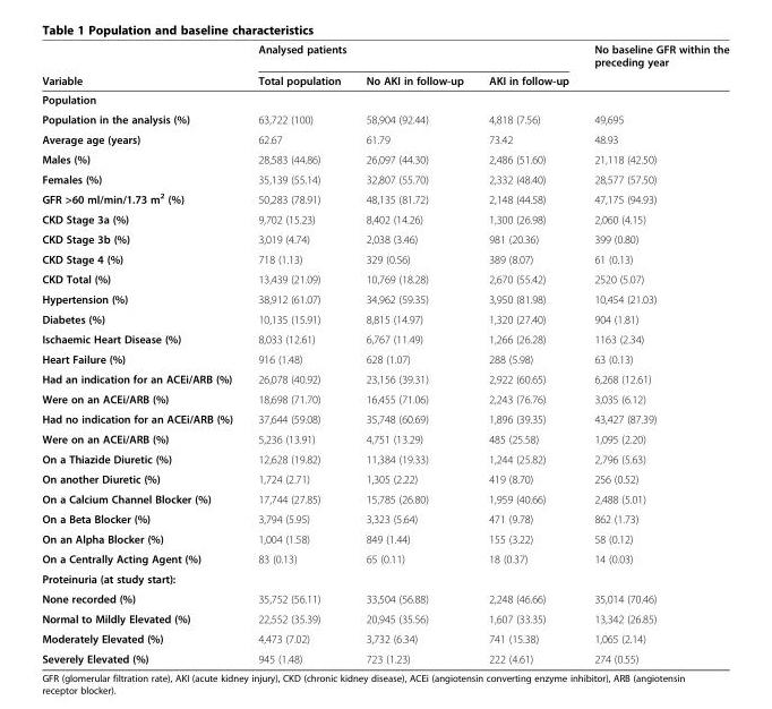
<table><thead><tr><td rowspan="2">Variable</td><td colspan="3">Analysed patients</td><td rowspan="2">No baseline GFR within the preceding year</td></tr><tr><td>Total population</td><td>No AKI in follow-up</td><td>AKI in follow-up</td></tr></thead><tbody><tr><td colspan="5">Population</td></tr><tr><td>Population in the analysis (%)</td><td>63,722 (100)</td><td>58,904 (92.44)</td><td>4,818 (7.56)</td><td>49,695</td></tr><tr><td>Average age (years)</td><td>62.67</td><td>61.79</td><td>73.42</td><td>48.93</td></tr><tr><td>Males (%)</td><td>28,583 (44.86)</td><td>26,097 (44.30)</td><td>2,486 (51.60)</td><td>21,118 (42.50)</td></tr><tr><td>Females (%)</td><td>35,139 (55.14)</td><td>32,807 (55.70)</td><td>2,332 (48.40)</td><td>28,577 (57.50)</td></tr><tr><td>GFR &gt;60 ml/min/1.73 m<sup>2</sup> (%)</td><td>50,283 (78.91)</td><td>48,135 (81.72)</td><td>2,148 (44.58)</td><td>47,175 (94.93)</td></tr><tr><td>CKD Stage 3a (%)</td><td>9,702 (15.23)</td><td>8,402 (14.26)</td><td>1,300 (26.98)</td><td>2,060 (4.15)</td></tr><tr><td>CKD Stage 3b (%)</td><td>3,019 (4.74)</td><td>2,038 (3.46)</td><td>981 (20.36)</td><td>399 (0.80)</td></tr><tr><td>CKD Stage 4 (%)</td><td>718 (1.13)</td><td>329 (0.56)</td><td>389 (8.07)</td><td>61 (0.13)</td></tr><tr><td>CKD Total (%)</td><td>13,439 (21.09)</td><td>10,769 (18.28)</td><td>2,670 (55.42)</td><td>2520 (5.07)</td></tr><tr><td>Hypertension (%)</td><td>38,912 (61.07)</td><td>34,962 (59.35)</td><td>3,950 (81.98)</td><td>10,454 (21.03)</td></tr><tr><td>Diabetes (%)</td><td>10,135 (15.91)</td><td>8,815 (14.97)</td><td>1,320 (27.40)</td><td>904 (1.81)</td></tr><tr><td>Ischaemic Heart Disease (%)</td><td>8,033 (12.61)</td><td>6,767 (11.49)</td><td>1,266 (26.28)</td><td>1163 (2.34)</td></tr><tr><td>Heart Failure (%)</td><td>916 (1.48)</td><td>628 (1.07)</td><td>288 (5.98)</td><td>63 (0.13)</td></tr><tr><td>Had an indication for an ACEi/ARB (%)</td><td>26,078 (40.92)</td><td>23,156 (39.31)</td><td>2,922 (60.65)</td><td>6,268 (12.61)</td></tr><tr><td>Were on an ACEi/ARB (%)</td><td>18,698 (71.70)</td><td>16,455 (71.06)</td><td>2,243 (76.76)</td><td>3,035 (6.12)</td></tr><tr><td>Had no indication for an ACEi/ARB (%)</td><td>37,644 (59.08)</td><td>35,748 (60.69)</td><td>1,896 (39.35)</td><td>43,427 (87.39)</td></tr><tr><td>Were on an ACEi/ARB (%)</td><td>5,236 (13.91)</td><td>4,751 (13.29)</td><td>485 (25.58)</td><td>1,095 (2.20)</td></tr><tr><td>On a Thiazide Diuretic (%)</td><td>12,628 (19.82)</td><td>11,384 (19.33)</td><td>1,244 (25.82)</td><td>2,796 (5.63)</td></tr><tr><td>On another Diuretic (%)</td><td>1,724 (2.71)</td><td>1,305 (2.22)</td><td>419 (8.70)</td><td>256 (0.52)</td></tr><tr><td>On a Calcium Channel Blocker (%)</td><td>17,744 (27.85)</td><td>15,785 (26.80)</td><td>1,959 (40.66)</td><td>2,488 (5.01)</td></tr><tr><td>On a Beta Blocker (%)</td><td>3,794 (5.95)</td><td>3,323 (5.64)</td><td>471 (9.78)</td><td>862 (1.73)</td></tr><tr><td>On an Alpha Blocker (%)</td><td>1,004 (1.58)</td><td>849 (1.44)</td><td>155 (3.22)</td><td>58 (0.12)</td></tr><tr><td>On a Centrally Acting Agent (%)</td><td>83 (0.13)</td><td>65 (0.11)</td><td>18 (0.37)</td><td>14 (0.03)</td></tr><tr><td colspan="5">Proteinuria (at study start):</td></tr><tr><td>None recorded (%)</td><td>35,752 (56.11)</td><td>33,504 (56.88)</td><td>2,248 (46.66)</td><td>35,014 (70.46)</td></tr><tr><td>Normal to Mildly Elevated (%)</td><td>22,552 (35.39)</td><td>20,945 (35.56)</td><td>1,607 (33.35)</td><td>13,342 (26.85)</td></tr><tr><td>Moderately Elevated (%)</td><td>4,473 (7.02)</td><td>3,732 (6.34)</td><td>741 (15.38)</td><td>1,065 (2.14)</td></tr><tr><td>Severely Elevated (%)</td><td>945 (1.48)</td><td>723 (1.23)</td><td>222 (4.61)</td><td>274 (0.55)</td></tr></tbody></table>